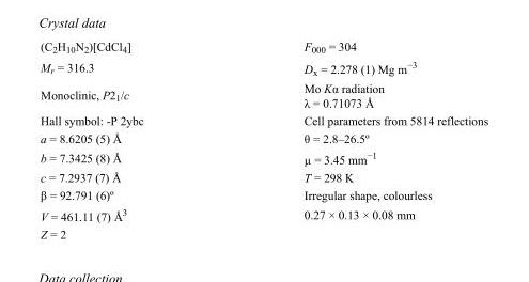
<table><tbody><tr><td>(C<sub>2</sub>H<sub>10</sub>N<sub>2</sub>)[CdCl<sub>4</sub>]</td><td>F000 = 304</td></tr><tr><td>M<sub>r</sub> = 316.3</td><td>D<sub>x</sub> = 2.278 (1) Mg m<sup>−3</sup></td></tr><tr><td>Monoclinic, P2<sub>1</sub>/c</td><td>Mo Kα radiation λ = 0.71073 Å</td></tr><tr><td>Hall symbol: -P 2ybc</td><td>Cell parameters from 5814 reflections</td></tr><tr><td>a = 8.6205 (5) Å</td><td>θ = 2.8–26.5º</td></tr><tr><td>b = 7.3425 (8) Å</td><td>µ = 3.45 mm<sup>−1</sup></td></tr><tr><td>c = 7.2937 (7) Å</td><td>T = 298 K</td></tr><tr><td>β = 92.791 (6)º</td><td>Irregular shape, colourless</td></tr><tr><td>V = 461.11 (7) Å<sup>3</sup></td><td>0.27 × 0.13 × 0.08 mm</td></tr><tr><td>Z = 2</td><td></td></tr></tbody></table>